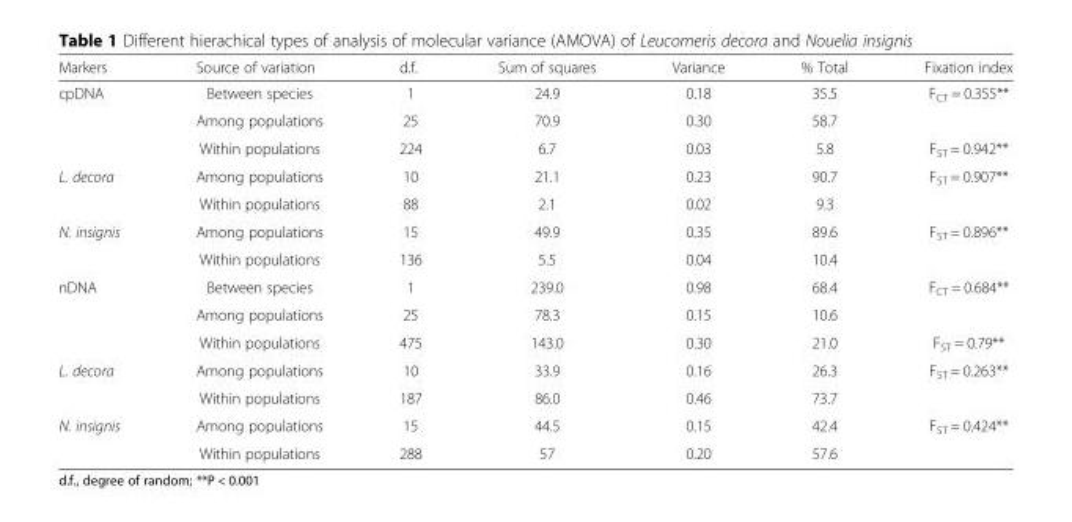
<table><thead><tr><td>Markers</td><td>Source of variation</td><td>d.f.</td><td>Sum of squares</td><td>Variance</td><td>% Total</td><td>Fixation index</td></tr></thead><tbody><tr><td rowspan="3">cpDNA</td><td>Between species</td><td>1</td><td>24.9</td><td>0.18</td><td>35.5</td><td>F<sub>CT</sub> = 0.355**</td></tr><tr><td>Among populations</td><td>25</td><td>70.9</td><td>0.30</td><td>58.7</td><td></td></tr><tr><td>Within populations</td><td>224</td><td>6.7</td><td>0.03</td><td>5.8</td><td>F<sub>ST</sub> = 0.942**</td></tr><tr><td rowspan="2">L. decora</td><td>Among populations</td><td>10</td><td>21.1</td><td>0.23</td><td>90.7</td><td>F<sub>ST</sub> = 0.907**</td></tr><tr><td>Within populations</td><td>88</td><td>2.1</td><td>0.02</td><td>9.3</td><td></td></tr><tr><td rowspan="2">N. insignis</td><td>Among populations</td><td>15</td><td>49.9</td><td>0.35</td><td>89.6</td><td>F<sub>ST</sub> = 0.896**</td></tr><tr><td>Within populations</td><td>136</td><td>5.5</td><td>0.04</td><td>10.4</td><td></td></tr><tr><td rowspan="3">nDNA</td><td>Between species</td><td>1</td><td>239.0</td><td>0.98</td><td>68.4</td><td>F<sub>CT</sub> = 0.684**</td></tr><tr><td>Among populations</td><td>25</td><td>78.3</td><td>0.15</td><td>10.6</td><td></td></tr><tr><td>Within populations</td><td>475</td><td>143.0</td><td>0.30</td><td>21.0</td><td>F<sub>ST</sub> = 0.79**</td></tr><tr><td rowspan="2">L. decora</td><td>Among populations</td><td>10</td><td>33.9</td><td>0.16</td><td>26.3</td><td>F<sub>ST</sub> = 0.263**</td></tr><tr><td>Within populations</td><td>187</td><td>86.0</td><td>0.46</td><td>73.7</td><td></td></tr><tr><td rowspan="2">N. insignis</td><td>Among populations</td><td>15</td><td>44.5</td><td>0.15</td><td>42.4</td><td>F<sub>ST</sub> = 0.424**</td></tr><tr><td>Within populations</td><td>288</td><td>57</td><td>0.20</td><td>57.6</td><td></td></tr></tbody></table>